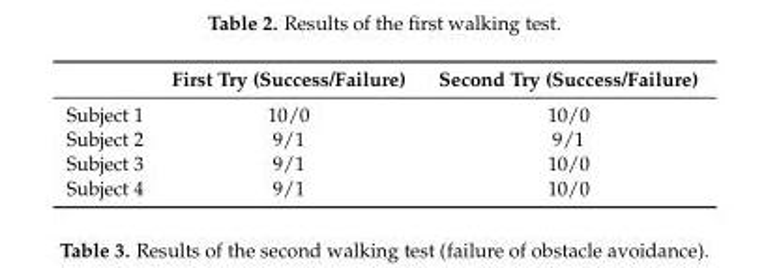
<table><thead><tr><td></td><td>First Try (Success/Failure)</td><td>Second Try (Success/Failure)</td></tr></thead><tbody><tr><td>Subject 1</td><td>10/0</td><td>10/0</td></tr><tr><td>Subject 2</td><td>9/1</td><td>9/1</td></tr><tr><td>Subject 3</td><td>9/1</td><td>10/0</td></tr><tr><td>Subject 4</td><td>9/1</td><td>10/0</td></tr></tbody></table>